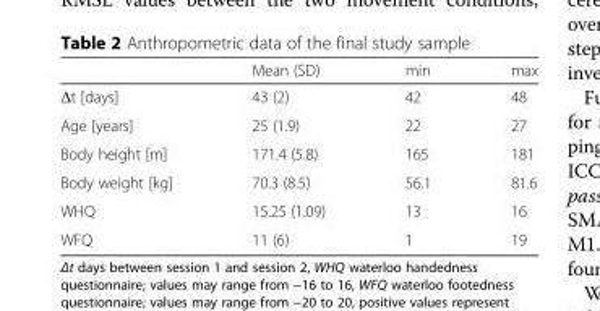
<table><thead><tr><td></td><td>Mean (SD)</td><td>min</td><td>max</td></tr></thead><tbody><tr><td>Δt [days]</td><td>43 (2)</td><td>42</td><td>48</td></tr><tr><td>Age [years]</td><td>25 (1.9)</td><td>22</td><td>27</td></tr><tr><td>Body height [m]</td><td>171.4 (5.8)</td><td>165</td><td>181</td></tr><tr><td>Body weight [kg]</td><td>70.3 (8.5)</td><td>56.1</td><td>81.6</td></tr><tr><td>WHQ</td><td>15.25 (1.09)</td><td>13</td><td>16</td></tr><tr><td>WFQ</td><td>11 (6)</td><td>1</td><td>19</td></tr></tbody></table>